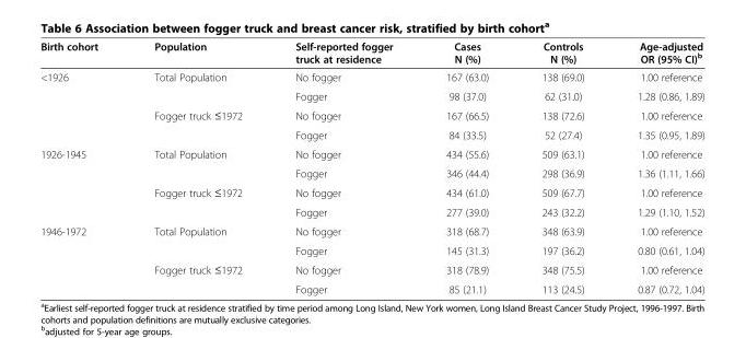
<table><thead><tr><td>Birth cohort</td><td>Population</td><td>Self-reported fogger truck at residence</td><td>Cases N (%)</td><td>Controls N (%)</td><td>Age-adjusted OR (95% CI)<sup>b</sup></td></tr></thead><tbody><tr><td rowspan="4">&lt;1926</td><td>Total Population</td><td>No fogger</td><td>167 (63.0)</td><td>138 (69.0)</td><td>1.00 reference</td></tr><tr><td></td><td>Fogger</td><td>98 (37.0)</td><td>62 (31.0)</td><td>1.28 (0.86, 1.89)</td></tr><tr><td>Fogger truck ≤1972</td><td>No fogger</td><td>167 (66.5)</td><td>138 (72.6)</td><td>1.00 reference</td></tr><tr><td></td><td>Fogger</td><td>84 (33.5)</td><td>52 (27.4)</td><td>1.35 (0.95, 1.89)</td></tr><tr><td rowspan="4">1926-1945</td><td>Total Population</td><td>No fogger</td><td>434 (55.6)</td><td>509 (63.1)</td><td>1.00 reference</td></tr><tr><td></td><td>Fogger</td><td>346 (44.4)</td><td>298 (36.9)</td><td>1.36 (1.11, 1.66)</td></tr><tr><td>Fogger truck ≤1972</td><td>No fogger</td><td>434 (61.0)</td><td>509 (67.7)</td><td>1.00 reference</td></tr><tr><td></td><td>Fogger</td><td>277 (39.0)</td><td>243 (32.2)</td><td>1.29 (1.10, 1.52)</td></tr><tr><td rowspan="4">1946-1972</td><td>Total Population</td><td>No fogger</td><td>318 (68.7)</td><td>348 (63.9)</td><td>1.00 reference</td></tr><tr><td></td><td>Fogger</td><td>145 (31.3)</td><td>197 (36.2)</td><td>0.80 (0.61, 1.04)</td></tr><tr><td>Fogger truck ≤1972</td><td>No fogger</td><td>318 (78.9)</td><td>348 (75.5)</td><td>1.00 reference</td></tr><tr><td></td><td>Fogger</td><td>85 (21.1)</td><td>113 (24.5)</td><td>0.87 (0.72, 1.04)</td></tr></tbody></table>